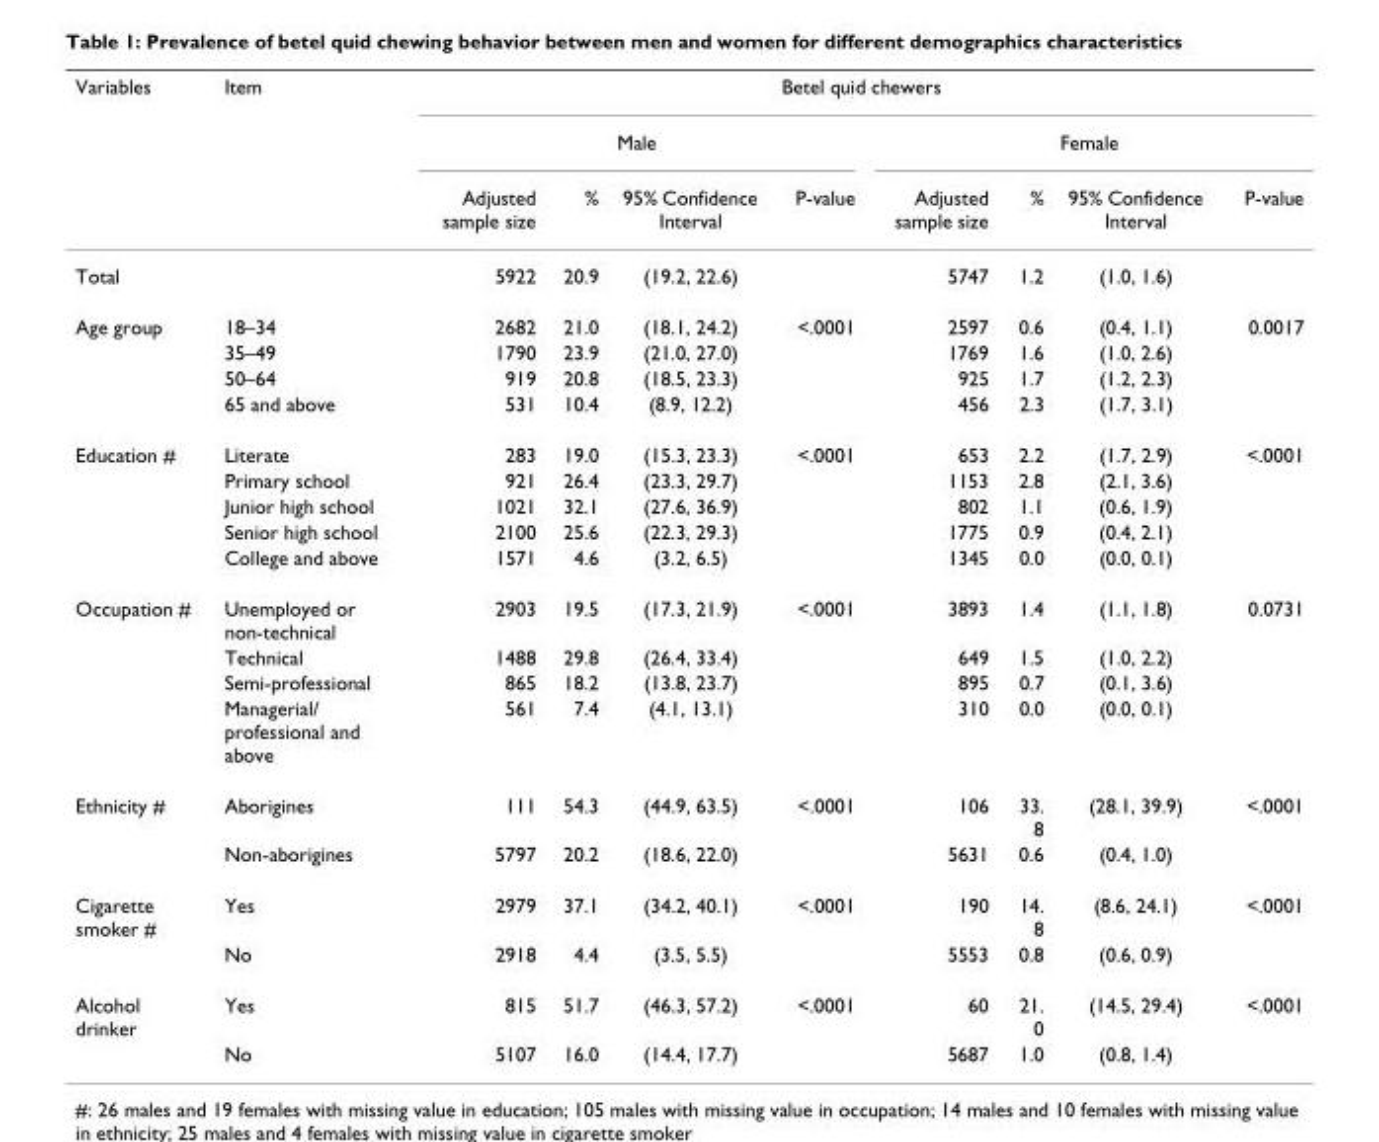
<table><thead><tr><td rowspan="3">Variables</td><td rowspan="3">Item</td><td colspan="8">Betel quid chewers</td></tr><tr><td colspan="4">Male</td><td colspan="4">Female</td></tr><tr><td>Adjusted sample size</td><td>%</td><td>95% Confidence Interval</td><td>P-value</td><td>Adjusted sample size</td><td>%</td><td>95% Confidence Interval</td><td>P-value</td></tr></thead><tbody><tr><td>Total</td><td></td><td>5922</td><td>20.9</td><td>(19.2, 22.6)</td><td></td><td>5747</td><td>1.2</td><td>(1.0, 1.6)</td><td></td></tr><tr><td rowspan="4">Age group</td><td>18–34</td><td>2682</td><td>21.0</td><td>(18.1, 24.2)</td><td>&lt;.0001</td><td>2597</td><td>0.6</td><td>(0.4, 1.1)</td><td>0.0017</td></tr><tr><td>35–49</td><td>1790</td><td>23.9</td><td>(21.0, 27.0)</td><td></td><td>1769</td><td>1.6</td><td>(1.0, 2.6)</td><td></td></tr><tr><td>50–64</td><td>919</td><td>20.8</td><td>(18.5, 23.3)</td><td></td><td>925</td><td>1.7</td><td>(1.2, 2.3)</td><td></td></tr><tr><td>65 and above</td><td>531</td><td>10.4</td><td>(8.9, 12.2)</td><td></td><td>456</td><td>2.3</td><td>(1.7, 3.1)</td><td></td></tr><tr><td rowspan="5">Education #</td><td>Literate</td><td>283</td><td>19.0</td><td>(15.3, 23.3)</td><td>&lt;.0001</td><td>653</td><td>2.2</td><td>(1.7, 2.9)</td><td>&lt;.0001</td></tr><tr><td>Primary school</td><td>921</td><td>26.4</td><td>(23.3, 29.7)</td><td></td><td>1153</td><td>2.8</td><td>(2.1, 3.6)</td><td></td></tr><tr><td>Junior high school</td><td>1021</td><td>32.1</td><td>(27.6, 36.9)</td><td></td><td>802</td><td>1.1</td><td>(0.6, 1.9)</td><td></td></tr><tr><td>Senior high school</td><td>2100</td><td>25.6</td><td>(22.3, 29.3)</td><td></td><td>1775</td><td>0.9</td><td>(0.4, 2.1)</td><td></td></tr><tr><td>College and above</td><td>1571</td><td>4.6</td><td>(3.2, 6.5)</td><td></td><td>1345</td><td>0.0</td><td>(0.0, 0.1)</td><td></td></tr><tr><td rowspan="4">Occupation #</td><td>Unemployed or non-technical</td><td>2903</td><td>19.5</td><td>(17.3, 21.9)</td><td>&lt;.0001</td><td>3893</td><td>1.4</td><td>(1.1, 1.8)</td><td>0.0731</td></tr><tr><td>Technical</td><td>1488</td><td>29.8</td><td>(26.4, 33.4)</td><td></td><td>649</td><td>1.5</td><td>(1.0, 2.2)</td><td></td></tr><tr><td>Semi-professional</td><td>865</td><td>18.2</td><td>(13.8, 23.7)</td><td></td><td>895</td><td>0.7</td><td>(0.1, 3.6)</td><td></td></tr><tr><td>Managerial/ professional and above</td><td>561</td><td>7.4</td><td>(4.1, 13.1)</td><td></td><td>310</td><td>0.0</td><td>(0.0, 0.1)</td><td></td></tr><tr><td rowspan="2">Ethnicity #</td><td>Aborigines</td><td>111</td><td>54.3</td><td>(44.9, 63.5)</td><td>&lt;.0001</td><td>106</td><td>33. 8</td><td>(28.1, 39.9)</td><td>&lt;.0001</td></tr><tr><td>Non-aborigines</td><td>5797</td><td>20.2</td><td>(18.6, 22.0)</td><td></td><td>5631</td><td>0.6</td><td>(0.4, 1.0)</td><td></td></tr><tr><td rowspan="2">Cigarette smoker #</td><td>Yes</td><td>2979</td><td>37.1</td><td>(34.2, 40.1)</td><td>&lt;.0001</td><td>190</td><td>14. 8</td><td>(8.6, 24.1)</td><td>&lt;.0001</td></tr><tr><td>No</td><td>2918</td><td>4.4</td><td>(3.5, 5.5)</td><td></td><td>5553</td><td>0.8</td><td>(0.6, 0.9)</td><td></td></tr><tr><td rowspan="2">Alcohol drinker</td><td>Yes</td><td>815</td><td>51.7</td><td>(46.3, 57.2)</td><td>&lt;.0001</td><td>60</td><td>21. 0</td><td>(14.5, 29.4)</td><td>&lt;.0001</td></tr><tr><td>No</td><td>5107</td><td>16.0</td><td>(14.4, 17.7)</td><td></td><td>5687</td><td>1.0</td><td>(0.8, 1.4)</td><td></td></tr></tbody></table>